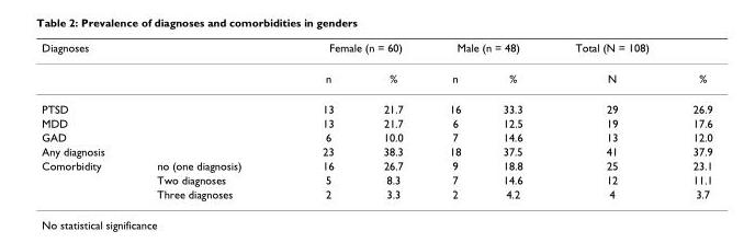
<table><thead><tr><td rowspan="2">Diagnoses</td><td rowspan="2"></td><td colspan="2">Female (n = 60)</td><td colspan="2">Male (n = 48)</td><td rowspan="2">Total (N = 108) N</td><td rowspan="2">%</td></tr><tr><td>n</td><td>%</td><td>n</td><td>%</td></tr></thead><tbody><tr><td>PTSD</td><td></td><td>13</td><td>21.7</td><td>16</td><td>33.3</td><td>29</td><td>26.9</td></tr><tr><td>MDD</td><td></td><td>13</td><td>21.7</td><td>6</td><td>12.5</td><td>19</td><td>17.6</td></tr><tr><td>GAD</td><td></td><td>6</td><td>10.0</td><td>7</td><td>14.6</td><td>13</td><td>12.0</td></tr><tr><td>Any diagnosis</td><td></td><td>23</td><td>38.3</td><td>18</td><td>37.5</td><td>41</td><td>37.9</td></tr><tr><td rowspan="3">Comorbidity</td><td>no (one diagnosis)</td><td>16</td><td>26.7</td><td>9</td><td>18.8</td><td>25</td><td>23.1</td></tr><tr><td>Two diagnoses</td><td>5</td><td>8.3</td><td>7</td><td>14.6</td><td>12</td><td>11.1</td></tr><tr><td>Three diagnoses</td><td>2</td><td>3.3</td><td>2</td><td>4.2</td><td>4</td><td>3.7</td></tr></tbody></table>